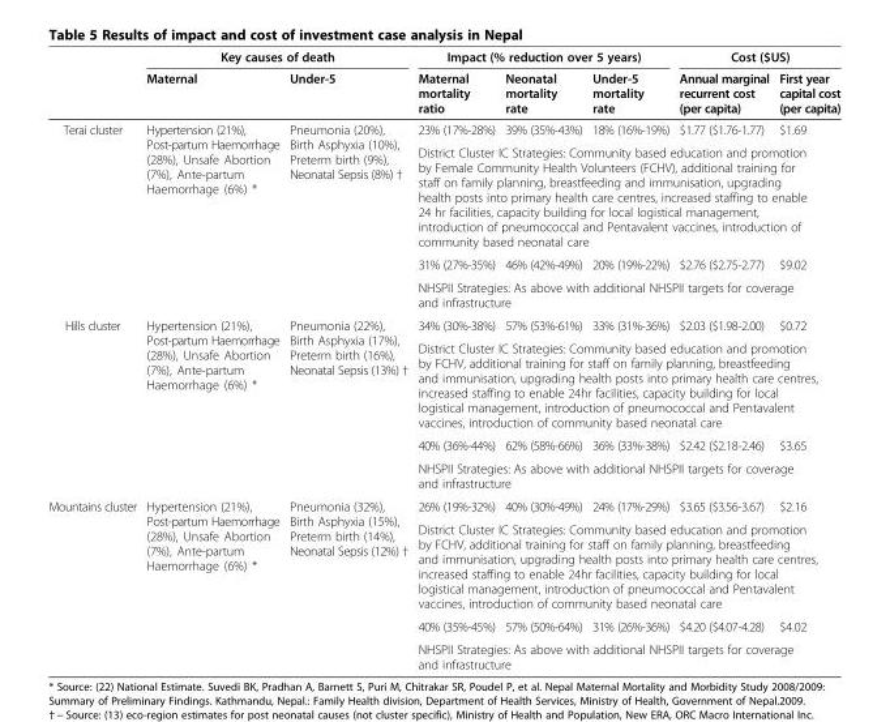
<table><thead><tr><td rowspan="2"></td><td colspan="2">Key causes of death</td><td colspan="3">Impact (% reduction over 5 years)</td><td colspan="2">Cost ($US)</td></tr><tr><td>Maternal</td><td>Under-5</td><td>Maternal mortality ratio</td><td>Neonatal mortality rate</td><td>Under-5 mortality rate</td><td>Annual marginal recurrent cost (per capita)</td><td>First year capital cost (per capita)</td></tr></thead><tbody><tr><td rowspan="4">Terai cluster</td><td rowspan="4">Hypertension (21%), Post-partum Haemorrhage (28%), Unsafe Abortion (7%), Ante-partum Haemorrhage (6%) *</td><td rowspan="4">Pneumonia (20%), Birth Asphyxia (10%), Preterm birth (9%), Neonatal Sepsis (8%) †</td><td>23% (17%-28%)</td><td>39% (35%-43%)</td><td>18% (16%-19%)</td><td>$1.77 ($1.76-1.77)</td><td>$1.69</td></tr><tr><td colspan="5">District Cluster IC Strategies: Community based education and promotion by Female Community Health Volunteers (FCHV), additional training for staff on family planning, breastfeeding and immunisation, upgrading health posts into primary health care centres, increased staffing to enable 24 hr facilities, capacity building for local logistical management, introduction of pneumococcal and Pentavalent vaccines, introduction of community based neonatal care</td></tr><tr><td>31% (27%-35%)</td><td>46% (42%-49%)</td><td>20% (19%-22%)</td><td>$2.76 ($2.75-2.77)</td><td>$9.02</td></tr><tr><td colspan="5">NHSPII Strategies: As above with additional NHSPII targets for coverage and infrastructure</td></tr><tr><td rowspan="4">Hills cluster</td><td rowspan="4">Hypertension (21%), Post-partum Haemorrhage (28%), Unsafe Abortion (7%), Ante-partum Haemorrhage (6%) *</td><td rowspan="4">Pneumonia (22%), Birth Asphyxia (17%), Preterm birth (16%), Neonatal Sepsis (13%) †</td><td>34% (30%-38%)</td><td>57% (53%-61%)</td><td>33% (31%-36%)</td><td>$2.03 ($1.98-2.00)</td><td>$0.72</td></tr><tr><td colspan="5">District Cluster IC Strategies: Community based education and promotion by FCHV, additional training for staff on family planning, breastfeeding and immunisation, upgrading health posts into primary health care centres, increased staffing to enable 24hr facilities, capacity building for local logistical management, introduction of pneumococcal and Pentavalent vaccines, introduction of community based neonatal care</td></tr><tr><td>40% (36%-44%)</td><td>62% (58%-66%)</td><td>36% (33%-38%)</td><td>$2.42 ($2.18-2.46)</td><td>$3.65</td></tr><tr><td colspan="5">NHSPII Strategies: As above with additional NHSPII targets for coverage and infrastructure</td></tr><tr><td rowspan="4">Mountains cluster</td><td rowspan="3">Hypertension (21%), Post-partum Haemorrhage (28%), Unsafe Abortion (7%), Ante-partum Haemorrhage (6%) *</td><td rowspan="3">Pneumonia (32%), Birth Asphyxia (15%), Preterm birth (14%), Neonatal Sepsis (12%) †</td><td>26% (19%-32%)</td><td>40% (30%-49%)</td><td>24% (17%-29%)</td><td>$3.65 ($3.56-3.67)</td><td>$2.16</td></tr><tr><td colspan="5">District Cluster IC Strategies: Community based education and promotion by FCHV, additional training for staff on family planning, breastfeeding and immunisation, upgrading health posts into primary health care centres, increased staffing to enable 24hr facilities, capacity building for local logistical management, introduction of pneumococcal and Pentavalent vaccines, introduction of community based neonatal care</td></tr><tr><td>40% (35%-45%)</td><td>57% (50%-64%)</td><td>31% (26%-36%)</td><td>$4.20 ($4.07-4.28)</td><td>$4.02</td></tr><tr><td></td><td></td><td colspan="5">NHSPII Strategies: As above with additional NHSPII targets for coverage and infrastructure</td></tr></tbody></table>